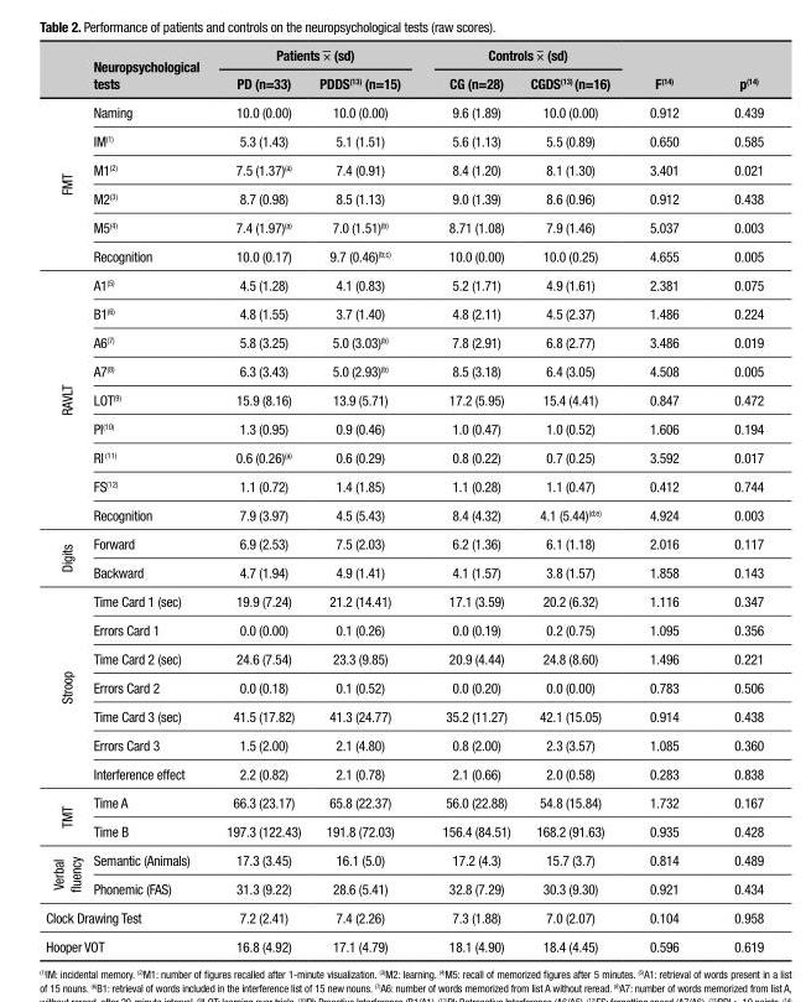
<table><thead><tr><td rowspan="2"></td><td rowspan="2">Neuropsychological tests</td><td colspan="2">Patients × (sd)</td><td colspan="2">Controls × (sd)</td><td rowspan="2">F<sup>(14)</sup></td><td rowspan="2">p<sup>(14)</sup></td></tr><tr><td>PD (n=33)</td><td>PDDS<sup>(13)</sup> (n=15)</td><td>CG (n=28)</td><td>CGDS<sup>(13)</sup> (n=16)</td></tr></thead><tbody><tr><td rowspan="6">FMT</td><td>Naming</td><td>10.0 (0.00)</td><td>10.0 (0.00)</td><td>9.6 (1.89)</td><td>10.0 (0.00)</td><td>0.912</td><td>0.439</td></tr><tr><td>IM<sup>(1)</sup></td><td>5.3 (1.43)</td><td>5.1 (1.51)</td><td>5.6 (1.13)</td><td>5.5 (0.89)</td><td>0.650</td><td>0.585</td></tr><tr><td>M1<sup>(2)</sup></td><td>7.5 (1.37)<sup>(a)</sup></td><td>7.4 (0.91)</td><td>8.4 (1.20)</td><td>8.1 (1.30)</td><td>3.401</td><td>0.021</td></tr><tr><td>M2<sup>(3)</sup></td><td>8.7 (0.98)</td><td>8.5 (1.13)</td><td>9.0 (1.39)</td><td>8.6 (0.96)</td><td>0.912</td><td>0.438</td></tr><tr><td>M5<sup>(4)</sup></td><td>7.4 (1.97)<sup>(a)</sup></td><td>7.0 (1.51)<sup>(b)</sup></td><td>8.71 (1.08)</td><td>7.9 (1.46)</td><td>5.037</td><td>0.003</td></tr><tr><td>Recognition</td><td>10.0 (0.17)</td><td>9.7 (0.46)<sup>(b;c)</sup></td><td>10.0 (0.00)</td><td>10.0 (0.25)</td><td>4.655</td><td>0.005</td></tr><tr><td rowspan="9">RAVLT</td><td>A1<sup>(5)</sup></td><td>4.5 (1.28)</td><td>4.1 (0.83)</td><td>5.2 (1.71)</td><td>4.9 (1.61)</td><td>2.381</td><td>0.075</td></tr><tr><td>B1<sup>(6)</sup></td><td>4.8 (1.55)</td><td>3.7 (1.40)</td><td>4.8 (2.11)</td><td>4.5 (2.37)</td><td>1.486</td><td>0.224</td></tr><tr><td>A6<sup>(7)</sup></td><td>5.8 (3.25)</td><td>5.0 (3.03)<sup>(b)</sup></td><td>7.8 (2.91)</td><td>6.8 (2.77)</td><td>3.486</td><td>0.019</td></tr><tr><td>A7<sup>(8)</sup></td><td>6.3 (3.43)</td><td>5.0 (2.93)<sup>(b)</sup></td><td>8.5 (3.18)</td><td>6.4 (3.05)</td><td>4.508</td><td>0.005</td></tr><tr><td>LOT<sup>(9)</sup></td><td>15.9 (8.16)</td><td>13.9 (5.71)</td><td>17.2 (5.95)</td><td>15.4 (4.41)</td><td>0.847</td><td>0.472</td></tr><tr><td>PI<sup>(10)</sup></td><td>1.3 (0.95)</td><td>0.9 (0.46)</td><td>1.0 (0.47)</td><td>1.0 (0.52)</td><td>1.606</td><td>0.194</td></tr><tr><td>RI <sup>(11)</sup></td><td>0.6 (0.26)<sup>(a)</sup></td><td>0.6 (0.29)</td><td>0.8 (0.22)</td><td>0.7 (0.25)</td><td>3.592</td><td>0.017</td></tr><tr><td>FS<sup>(12)</sup></td><td>1.1 (0.72)</td><td>1.4 (1.85)</td><td>1.1 (0.28)</td><td>1.1 (0.47)</td><td>0.412</td><td>0.744</td></tr><tr><td>Recognition</td><td>7.9 (3.97)</td><td>4.5 (5.43)</td><td>8.4 (4.32)</td><td>4.1 (5.44)<sup>(d;e)</sup></td><td>4.924</td><td>0.003</td></tr><tr><td rowspan="2">Digits</td><td>Forward</td><td>6.9 (2.53)</td><td>7.5 (2.03)</td><td>6.2 (1.36)</td><td>6.1 (1.18)</td><td>2.016</td><td>0.117</td></tr><tr><td>Backward</td><td>4.7 (1.94)</td><td>4.9 (1.41)</td><td>4.1 (1.57)</td><td>3.8 (1.57)</td><td>1.858</td><td>0.143</td></tr><tr><td rowspan="7">Stroop</td><td>Time Card 1 (sec)</td><td>19.9 (7.24)</td><td>21.2 (14.41)</td><td>17.1 (3.59)</td><td>20.2 (6.32)</td><td>1.116</td><td>0.347</td></tr><tr><td>Errors Card 1</td><td>0.0 (0.00)</td><td>0.1 (0.26)</td><td>0.0 (0.19)</td><td>0.2 (0.75)</td><td>1.095</td><td>0.356</td></tr><tr><td>Time Card 2 (sec)</td><td>24.6 (7.54)</td><td>23.3 (9.85)</td><td>20.9 (4.44)</td><td>24.8 (8.60)</td><td>1.496</td><td>0.221</td></tr><tr><td>Errors Card 2</td><td>0.0 (0.18)</td><td>0.1 (0.52)</td><td>0.0 (0.20)</td><td>0.0 (0.00)</td><td>0.783</td><td>0.506</td></tr><tr><td>Time Card 3 (sec)</td><td>41.5 (17.82)</td><td>41.3 (24.77)</td><td>35.2 (11.27)</td><td>42.1 (15.05)</td><td>0.914</td><td>0.438</td></tr><tr><td>Errors Card 3</td><td>1.5 (2.00)</td><td>2.1 (4.80)</td><td>0.8 (2.00)</td><td>2.3 (3.57)</td><td>1.085</td><td>0.360</td></tr><tr><td>Interference effect</td><td>2.2 (0.82)</td><td>2.1 (0.78)</td><td>2.1 (0.66)</td><td>2.0 (0.58)</td><td>0.283</td><td>0.838</td></tr><tr><td rowspan="2">TMT</td><td>Time A</td><td>66.3 (23.17)</td><td>65.8 (22.37)</td><td>56.0 (22.88)</td><td>54.8 (15.84)</td><td>1.732</td><td>0.167</td></tr><tr><td>Time B</td><td>197.3 (122.43)</td><td>191.8 (72.03)</td><td>156.4 (84.51)</td><td>168.2 (91.63)</td><td>0.935</td><td>0.428</td></tr><tr><td rowspan="2">Verbal fluency</td><td>Semantic (Animals)</td><td>17.3 (3.45)</td><td>16.1 (5.0)</td><td>17.2 (4.3)</td><td>15.7 (3.7)</td><td>0.814</td><td>0.489</td></tr><tr><td>Phonemic (FAS)</td><td>31.3 (9.22)</td><td>28.6 (5.41)</td><td>32.8 (7.29)</td><td>30.3 (9.30)</td><td>0.921</td><td>0.434</td></tr><tr><td colspan="2">Clock Drawing Test</td><td>7.2 (2.41)</td><td>7.4 (2.26)</td><td>7.3 (1.88)</td><td>7.0 (2.07)</td><td>0.104</td><td>0.958</td></tr><tr><td colspan="2">Hooper VOT</td><td>16.8 (4.92)</td><td>17.1 (4.79)</td><td>18.1 (4.90)</td><td>18.4 (4.45)</td><td>0.596</td><td>0.619</td></tr></tbody></table>